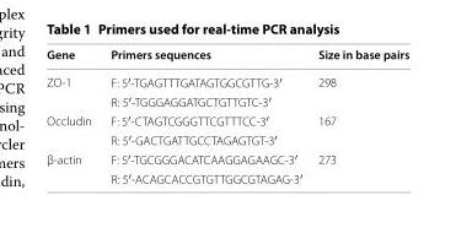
<table><thead><tr><td>Gene</td><td>Primers sequences</td><td>Size in base pairs</td></tr></thead><tbody><tr><td rowspan="2">ZO-1</td><td>F: 5′-TGAGTTTGATAGTGGCGTTG-3′</td><td rowspan="2">298</td></tr><tr><td>R: 5′-TGGGAGGATGCTGTTGTC-3′</td></tr><tr><td rowspan="2">Occludin</td><td>F: 5′-CTAGTCGGGTTCGTTTCC-3′</td><td rowspan="2">167</td></tr><tr><td>R: 5′-GACTGATTGCCTAGAGTGT-3′</td></tr><tr><td rowspan="2">β-actin</td><td>F: 5′-TGCGGGACATCAAGGAGAAGC-3′</td><td rowspan="2">273</td></tr><tr><td>R: 5′-ACAGCACCGTGTTGGCGTAGAG-3′</td></tr></tbody></table>